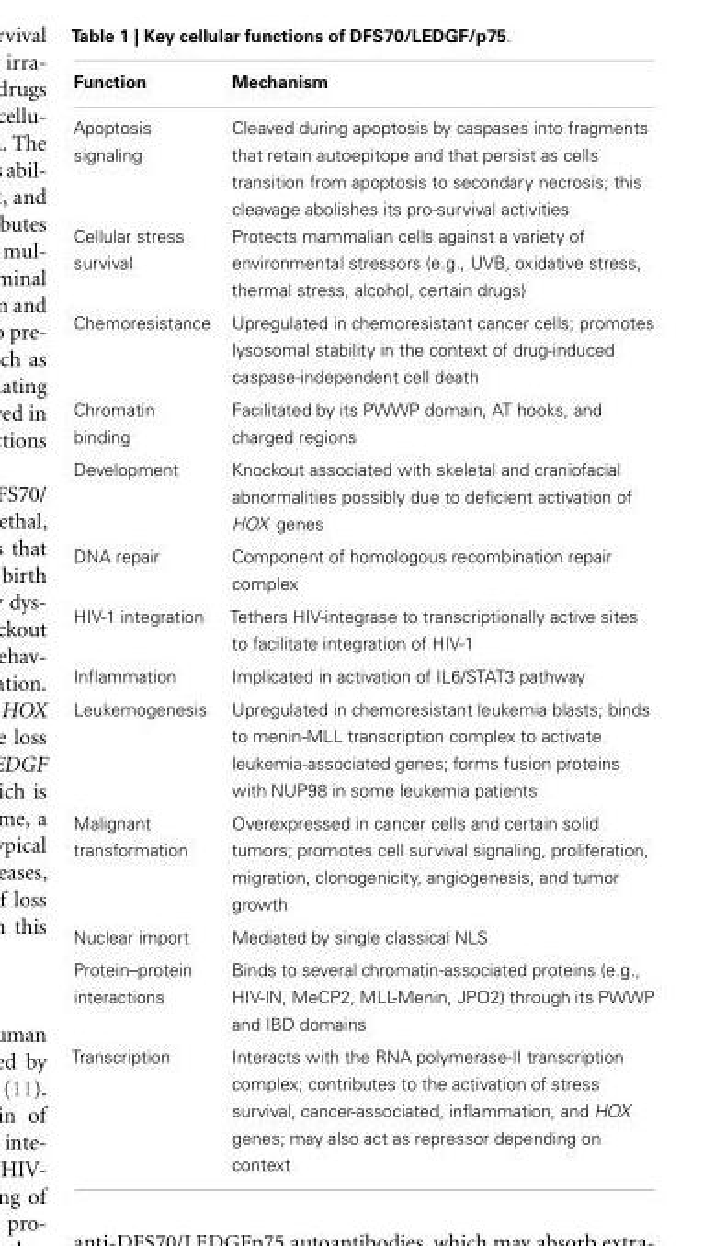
<table><thead><tr><td>Function</td><td>Mechanism</td></tr></thead><tbody><tr><td>Apoptosis signaling</td><td>Cleaved during apoptosis by caspases into fragments that retain autoepitope and that persist as cells transition from apoptosis to secondary necrosis; this cleavage abolishes its pro-survival activities</td></tr><tr><td>Cellular stress survival</td><td>Protects mammalian cells against a variety of environmental stressors (e.g., UVB, oxidative stress, thermal stress, alcohol, certain drugs)</td></tr><tr><td>Chemoresistance</td><td>Upregulated in chemoresistant cancer cells; promotes lysosomal stability in the context of drug-induced caspase-independent cell death</td></tr><tr><td>Chromatin binding</td><td>Facilitated by its PWWP domain, AT hooks, and charged regions</td></tr><tr><td>Development</td><td>Knockout associated with skeletal and craniofacial abnormalities possibly due to deficient activation of HOX genes</td></tr><tr><td>DNA repair</td><td>Component of homologous recombination repair complex</td></tr><tr><td>HIV-1 integration</td><td>Tethers HIV-integrase to transcriptionally active sites to facilitate integration of HIV-1</td></tr><tr><td>Inflammation</td><td>Implicated in activation of IL6/STAT3 pathway</td></tr><tr><td>Leukemogenesis</td><td>Upregulated in chemoresistant leukemia blasts; binds to menin-MLL transcription complex to activate leukemia-associated genes; forms fusion proteins with NUP98 in some leukemia patients</td></tr><tr><td>Malignant transformation</td><td>Overexpressed in cancer cells and certain solid tumors; promotes cell survival signaling, proliferation, migration, clonogenicity, angiogenesis, and tumor growth</td></tr><tr><td>Nuclear import</td><td>Mediated by single classical NLS</td></tr><tr><td>Protein–protein interactions</td><td>Binds to several chromatin-associated proteins (e.g., HIV-IN, MeCP2, MLL-Menin, JPO2) through its PWWP and IBD domains</td></tr><tr><td>Transcription</td><td>Interacts with the RNA polymerase-II transcription complex; contributes to the activation of stress survival, cancer-associated, inflammation, and HOX genes; may also act as repressor depending on context</td></tr></tbody></table>